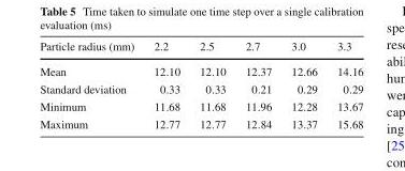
<table><thead><tr><td>Particle radius (mm)</td><td>2.2</td><td>2.5</td><td>2.7</td><td>3.0</td><td>3.3</td></tr></thead><tbody><tr><td>Mean</td><td>12.10</td><td>12.10</td><td>12.37</td><td>12.66</td><td>14.16</td></tr><tr><td>Standard deviation</td><td>0.33</td><td>0.33</td><td>0.21</td><td>0.29</td><td>0.29</td></tr><tr><td>Minimum</td><td>11.68</td><td>11.68</td><td>11.96</td><td>12.28</td><td>13.67</td></tr><tr><td>Maximum</td><td>12.77</td><td>12.77</td><td>12.84</td><td>13.37</td><td>15.68</td></tr></tbody></table>